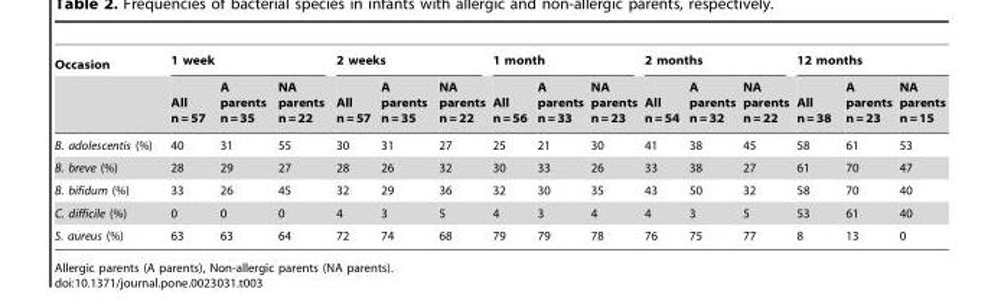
<table><thead><tr><td rowspan="2">Occasion</td><td colspan="3">1 week</td><td colspan="3">2 weeks</td><td colspan="3">1 month</td><td colspan="3">2 months</td><td colspan="3">12 months</td></tr><tr><td>All n = 57</td><td>A parents n = 35</td><td>NA parents n = 22</td><td>All n = 57</td><td>A parents n = 35</td><td>NA parents n = 22</td><td>All n = 56</td><td>A parents n = 33</td><td>NA parents n = 23</td><td>All n = 54</td><td>A parents n = 32</td><td>NA parents n = 22</td><td>All n = 38</td><td>A parents n = 23</td><td>NA parents n = 15</td></tr></thead><tbody><tr><td>B. adolescentis (%)</td><td>40</td><td>31</td><td>55</td><td>30</td><td>31</td><td>27</td><td>25</td><td>21</td><td>30</td><td>41</td><td>38</td><td>45</td><td>58</td><td>61</td><td>53</td></tr><tr><td>B. breve (%)</td><td>28</td><td>29</td><td>27</td><td>28</td><td>26</td><td>32</td><td>30</td><td>33</td><td>26</td><td>33</td><td>38</td><td>27</td><td>61</td><td>70</td><td>47</td></tr><tr><td>B. bifidum (%)</td><td>33</td><td>26</td><td>45</td><td>32</td><td>29</td><td>36</td><td>32</td><td>30</td><td>35</td><td>43</td><td>50</td><td>32</td><td>58</td><td>70</td><td>40</td></tr><tr><td>C. difficile (%)</td><td>0</td><td>0</td><td>0</td><td>4</td><td>3</td><td>5</td><td>4</td><td>3</td><td>4</td><td>4</td><td>3</td><td>5</td><td>53</td><td>61</td><td>40</td></tr><tr><td>S. aureus (%)</td><td>63</td><td>63</td><td>64</td><td>72</td><td>74</td><td>68</td><td>79</td><td>79</td><td>78</td><td>76</td><td>75</td><td>77</td><td>8</td><td>13</td><td>0</td></tr></tbody></table>